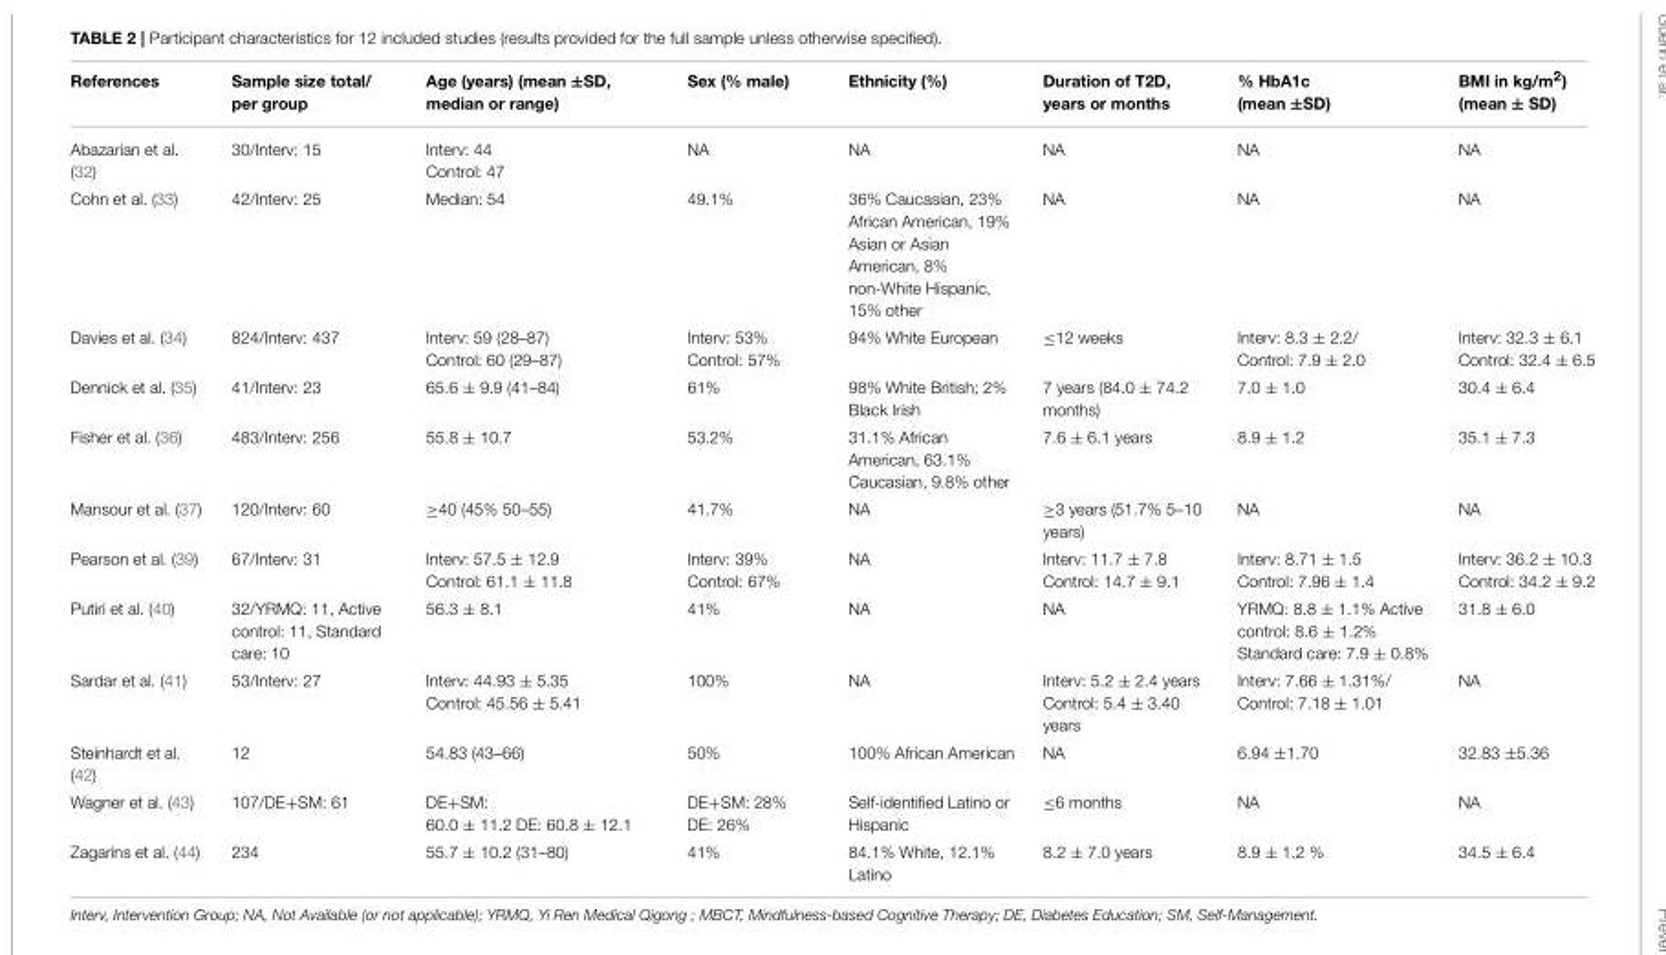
<table><thead><tr><td>References</td><td>Sample size total/ per group</td><td>Age (years) (mean ±SD, median or range)</td><td>Sex (% male)</td><td>Ethnicity (%)</td><td>Duration of T2D, years or months</td><td>% HbA1c (mean ±SD)</td><td>BMI in kg/m2) (mean ± SD)</td></tr></thead><tbody><tr><td>Abazarian et al. (32)</td><td>30/Interv: 15</td><td>Interv: 44 Control: 47</td><td>NA</td><td>NA</td><td>NA</td><td>NA</td><td>NA</td></tr><tr><td>Cohn et al. (33)</td><td>42/Interv: 25</td><td>Median: 54</td><td>49.1%</td><td>36% Caucasian, 23% African American, 19% Asian or Asian American, 8% non-White Hispanic, 15% other</td><td>NA</td><td>NA</td><td>NA</td></tr><tr><td>Davies et al. (34)</td><td>824/Interv: 437</td><td>Interv: 59 (28–87) Control: 60 (29–87)</td><td>Interv: 53% Control: 57%</td><td>94% White European</td><td>≤12 weeks</td><td>Interv: 8.3 ± 2.2/ Control: 7.9 ± 2.0</td><td>Interv: 32.3 ± 6.1 Control: 32.4 ± 6.5</td></tr><tr><td>Dennick et al. (35)</td><td>41/Interv: 23</td><td>65.6 ± 9.9 (41–84)</td><td>61%</td><td>98% White British; 2% Black Irish</td><td>7 years (84.0 ± 74.2 months)</td><td>7.0 ± 1.0</td><td>30.4 ± 6.4</td></tr><tr><td>Fisher et al. (36)</td><td>483/Interv: 256</td><td>55.8 ± 10.7</td><td>53.2%</td><td>31.1% African American, 63.1% Caucasian, 9.8% other</td><td>7.6 ± 6.1 years</td><td>8.9 ± 1.2</td><td>35.1 ± 7.3</td></tr><tr><td>Mansour et al. (37)</td><td>120/Interv: 60</td><td>≥40 (45% 50–55)</td><td>41.7%</td><td>NA</td><td>≥3 years (51.7% 5–10 years)</td><td>NA</td><td>NA</td></tr><tr><td>Pearson et al. (39)</td><td>67/Interv: 31</td><td>Interv: 57.5 ± 12.9 Control: 61.1 ± 11.8</td><td>Interv: 39% Control: 67%</td><td>NA</td><td>Interv: 11.7 ± 7.8 Control: 14.7 ± 9.1</td><td>Interv: 8.71 ± 1.5 Control: 7.96 ± 1.4</td><td>Interv: 36.2 ± 10.3 Control: 34.2 ± 9.2</td></tr><tr><td>Putiri et al. (40)</td><td>32/YRMQ: 11, Active control: 11, Standard care: 10</td><td>56.3 ± 8.1</td><td>41%</td><td>NA</td><td>NA</td><td>YRMQ: 8.8 ± 1.1% Active control: 8.6 ± 1.2% Standard care: 7.9 ± 0.8%</td><td>31.8 ± 6.0</td></tr><tr><td>Sardar et al. (41)</td><td>53/Interv: 27</td><td>Interv: 44.93 ± 5.35 Control: 45.56 ± 5.41</td><td>100%</td><td>NA</td><td>Interv: 5.2 ± 2.4 years Control: 5.4 ± 3.40 years</td><td>Interv: 7.66 ± 1.31%/ Control: 7.18 ± 1.01</td><td>NA</td></tr><tr><td>Steinhardt et al. (42)</td><td>12</td><td>54.83 (43–66)</td><td>50%</td><td>100% African American</td><td>NA</td><td>6.94 ±1.70</td><td>32.83 ±5.36</td></tr><tr><td>Wagner et al. (43)</td><td>107/DE+SM: 61</td><td>DE+SM: 60.0 ± 11.2 DE: 60.8 ± 12.1</td><td>DE+SM: 28% DE: 26%</td><td>Self-identified Latino or Hispanic</td><td>≤6 months</td><td>NA</td><td>NA</td></tr><tr><td>Zagarins et al. (44)</td><td>234</td><td>55.7 ± 10.2 (31–80)</td><td>41%</td><td>84.1% White, 12.1% Latino</td><td>8.2 ± 7.0 years</td><td>8.9 ± 1.2 %</td><td>34.5 ± 6.4</td></tr></tbody></table>